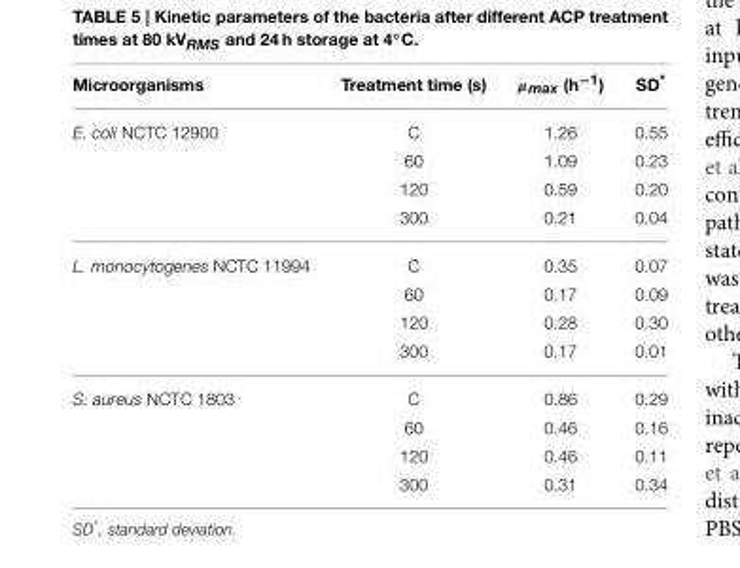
<table><thead><tr><td>Microorganisms</td><td>Treatment time (s)</td><td>µ<sub>max</sub> (h<sup>−1</sup>)</td><td>SD*</td></tr></thead><tbody><tr><td rowspan="4">E. coli NCTC 12900</td><td>C</td><td>1.26</td><td>0.55</td></tr><tr><td>60</td><td>1.09</td><td>0.23</td></tr><tr><td>120</td><td>0.59</td><td>0.20</td></tr><tr><td>300</td><td>0.21</td><td>0.04</td></tr><tr><td rowspan="4">L. monocytogenes NCTC 11994</td><td>C</td><td>0.35</td><td>0.07</td></tr><tr><td>60</td><td>0.17</td><td>0.09</td></tr><tr><td>120</td><td>0.28</td><td>0.30</td></tr><tr><td>300</td><td>0.17</td><td>0.01</td></tr><tr><td rowspan="4">S. aureus NCTC 1803</td><td>C</td><td>0.86</td><td>0.29</td></tr><tr><td>60</td><td>0.46</td><td>0.16</td></tr><tr><td>120</td><td>0.46</td><td>0.11</td></tr><tr><td>300</td><td>0.31</td><td>0.34</td></tr></tbody></table>